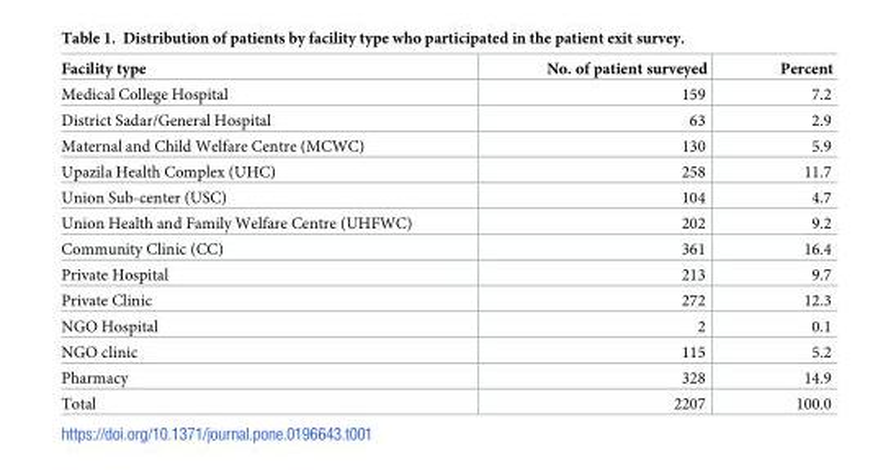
<table><thead><tr><td>Facility type</td><td>No. of patient surveyed</td><td>Percent</td></tr></thead><tbody><tr><td>Medical College Hospital</td><td>159</td><td>7.2</td></tr><tr><td>District Sadar/General Hospital</td><td>63</td><td>2.9</td></tr><tr><td>Maternal and Child Welfare Centre (MCWC)</td><td>130</td><td>5.9</td></tr><tr><td>Upazila Health Complex (UHC)</td><td>258</td><td>11.7</td></tr><tr><td>Union Sub-center (USC)</td><td>104</td><td>4.7</td></tr><tr><td>Union Health and Family Welfare Centre (UHFWC)</td><td>202</td><td>9.2</td></tr><tr><td>Community Clinic (CC)</td><td>361</td><td>16.4</td></tr><tr><td>Private Hospital</td><td>213</td><td>9.7</td></tr><tr><td>Private Clinic</td><td>272</td><td>12.3</td></tr><tr><td>NGO Hospital</td><td>2</td><td>0.1</td></tr><tr><td>NGO clinic</td><td>115</td><td>5.2</td></tr><tr><td>Pharmacy</td><td>328</td><td>14.9</td></tr><tr><td>Total</td><td>2207</td><td>100.0</td></tr></tbody></table>